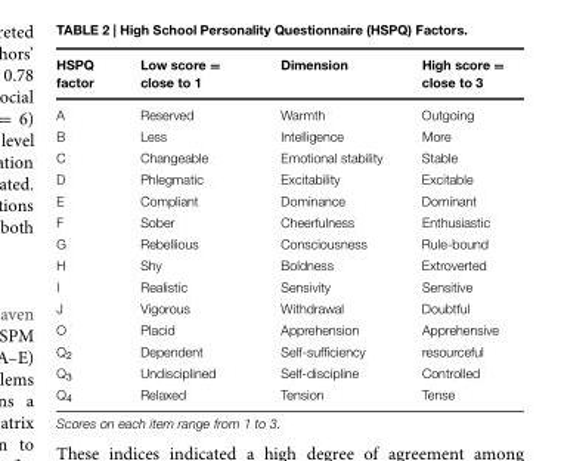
<table><thead><tr><td>HSPQ factor</td><td>Low score = close to 1</td><td>Dimension</td><td>High score = close to 3</td></tr></thead><tbody><tr><td>A</td><td>Reserved</td><td>Warmth</td><td>Outgoing</td></tr><tr><td>B</td><td>Less</td><td>Intelligence</td><td>More</td></tr><tr><td>C</td><td>Changeable</td><td>Emotional stability</td><td>Stable</td></tr><tr><td>D</td><td>Phlegmatic</td><td>Excitability</td><td>Excitable</td></tr><tr><td>E</td><td>Compliant</td><td>Dominance</td><td>Dominant</td></tr><tr><td>F</td><td>Sober</td><td>Cheerfulness</td><td>Enthusiastic</td></tr><tr><td>G</td><td>Rebellious</td><td>Consciousness</td><td>Rule-bound</td></tr><tr><td>H</td><td>Shy</td><td>Boldness</td><td>Extroverted</td></tr><tr><td>I</td><td>Realistic</td><td>Sensivity</td><td>Sensitive</td></tr><tr><td>J</td><td>Vigorous</td><td>Withdrawal</td><td>Doubtful</td></tr><tr><td>O</td><td>Placid</td><td>Apprehension</td><td>Apprehensive</td></tr><tr><td>Q<sub>2</sub></td><td>Dependent</td><td>Self-sufficiency</td><td>resourceful</td></tr><tr><td>Q<sub>3</sub></td><td>Undisciplined</td><td>Self-discipline</td><td>Controlled</td></tr><tr><td>Q<sub>4</sub></td><td>Relaxed</td><td>Tension</td><td>Tense</td></tr></tbody></table>